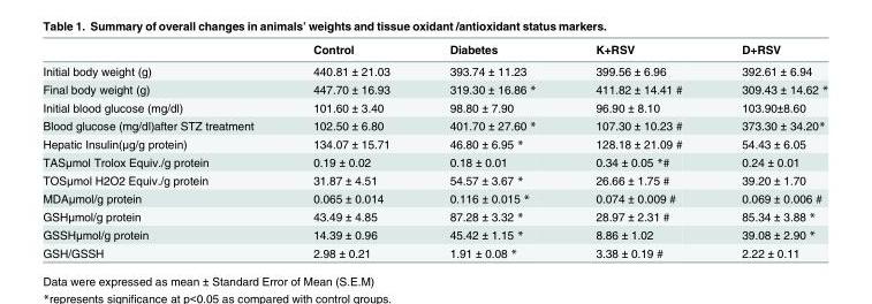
<table><thead><tr><td></td><td>Control</td><td>Diabetes</td><td>K+RSV</td><td>D+RSV</td></tr></thead><tbody><tr><td>Initial body weight (g)</td><td>440.81 ± 21.03</td><td>393.74 ± 11.23</td><td>399.56 ± 6.96</td><td>392.61 ± 6.94</td></tr><tr><td>Final body weight (g)</td><td>447.70 ± 16.93</td><td>319.30 ± 16.86 *</td><td>411.82 ± 14.41 #</td><td>309.43 ± 14.62 *</td></tr><tr><td>Initial blood glucose (mg/dl)</td><td>101.60 ± 3.40</td><td>98.80 ± 7.90</td><td>96.90 ± 8.10</td><td>103.90±8.60</td></tr><tr><td>Blood glucose (mg/dl)after STZ treatment</td><td>102.50 ± 6.80</td><td>401.70 ± 27.60 *</td><td>107.30 ± 10.23 #</td><td>373.30 ± 34.20*</td></tr><tr><td>Hepatic Insulin(μg/g protein)</td><td>134.07 ± 15.71</td><td>46.80 ± 6.95 *</td><td>128.18 ± 21.09 #</td><td>54.43 ± 6.05</td></tr><tr><td>TASμmol Trolox Equiv./g protein</td><td>0.19 ± 0.02</td><td>0.18 ± 0.01</td><td>0.34 ± 0.05 *#</td><td>0.24 ± 0.01</td></tr><tr><td>TOSμmol H2O2 Equiv./g protein</td><td>31.87 ± 4.51</td><td>54.57 ± 3.67 *</td><td>26.66 ± 1.75 #</td><td>39.20 ± 1.70</td></tr><tr><td>MDAμmol/g protein</td><td>0.065 ± 0.014</td><td>0.116 ± 0.015 *</td><td>0.074 ± 0.009 #</td><td>0.069 ± 0.006 #</td></tr><tr><td>GSHμmol/g protein</td><td>43.49 ± 4.85</td><td>87.28 ± 3.32 *</td><td>28.97 ± 2.31 #</td><td>85.34 ± 3.88 *</td></tr><tr><td>GSSHμmol/g protein</td><td>14.39 ± 0.96</td><td>45.42 ± 1.15 *</td><td>8.86 ± 1.02</td><td>39.08 ± 2.90 *</td></tr><tr><td>GSH/GSSH</td><td>2.98 ± 0.21</td><td>1.91 ± 0.08 *</td><td>3.38 ± 0.19 #</td><td>2.22 ± 0.11</td></tr></tbody></table>